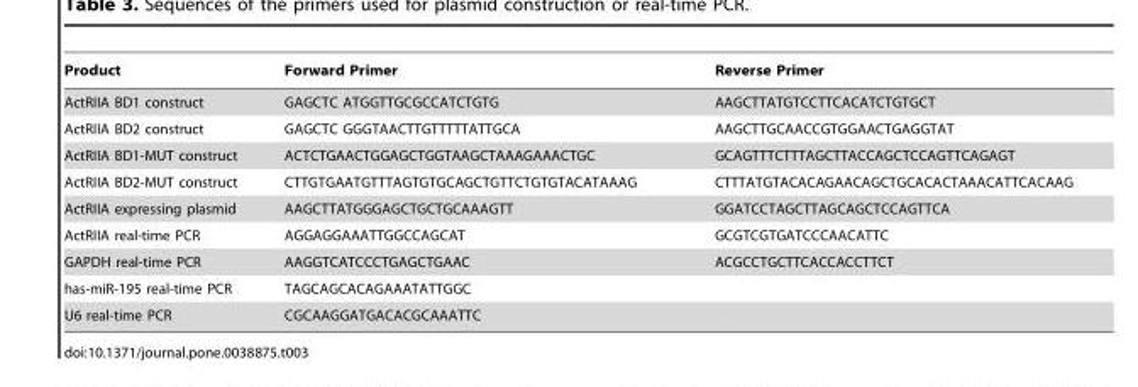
<table><thead><tr><td>Product</td><td>Forward Primer</td><td>Reverse Primer</td></tr></thead><tbody><tr><td>ActRIIA BD1 construct</td><td>GAGCTC ATGGTTGCGCCATCTGTG</td><td>AAGCTTATGTCCTTCACATCTGTGCT</td></tr><tr><td>ActRIIA BD2 construct</td><td>GAGCTC GGGTAACTTGTTTTTATTGCA</td><td>AAGCTTGCAACCGTGGAACTGAGGTAT</td></tr><tr><td>ActRIIA BD1-MUT construct</td><td>ACTCTGAACTGGAGCTGGTAAGCTAAAGAAACTGC</td><td>GCAGTTTCTTTAGCTTACCAGCTCCAGTTCAGAGT</td></tr><tr><td>ActRIIA BD2-MUT construct</td><td>CTTGTGAATGTTTAGTGTGCAGCTGTTCTGTGTACATAAAG</td><td>CTTTATGTACACAGAACAGCTGCACACTAAACATTCACAAG</td></tr><tr><td>ActRIIA expressing plasmid</td><td>AAGCTTATGGGAGCTGCTGCAAAGTT</td><td>GGATCCTAGCTTAGCAGCTCCAGTTCA</td></tr><tr><td>ActRIIA real-time PCR</td><td>AGGAGGAAATTGGCCAGCAT</td><td>GCGTCGTGATCCCAACATTC</td></tr><tr><td>GAPDH real-time PCR</td><td>AAGGTCATCCCTGAGCTGAAC</td><td>ACGCCTGCTTCACCACCTTCT</td></tr><tr><td>has-miR-195 real-time PCR</td><td>TAGCAGCACAGAAATATTGGC</td><td></td></tr><tr><td>U6 real-time PCR</td><td>CGCAAGGATGACACGCAAATTC</td><td></td></tr></tbody></table>